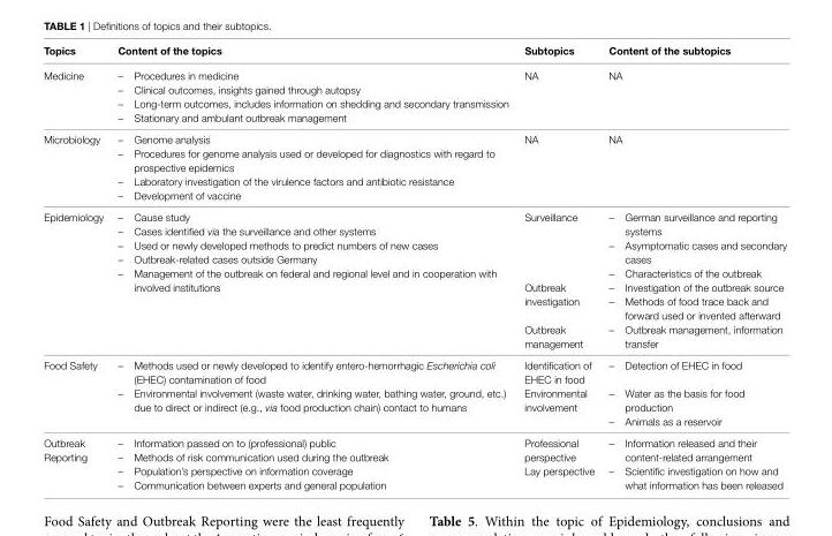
<table><thead><tr><td>Topics</td><td>Content of the topics</td><td>Subtopics</td><td>Content of the subtopics</td></tr></thead><tbody><tr><td>Medicine</td><td>– Procedures in medicine – Clinical outcomes, insights gained through autopsy – Long-term outcomes, includes information on shedding and secondary transmission – Stationary and ambulant outbreak management</td><td>NA</td><td>NA</td></tr><tr><td>Microbiology</td><td>– Genome analysis – Procedures for genome analysis used or developed for diagnostics with regard to prospective epidemics – Laboratory investigation of the virulence factors and antibiotic resistance – Development of vaccine</td><td>NA</td><td>NA</td></tr><tr><td rowspan="3">Epidemiology</td><td rowspan="3">– Cause study – Cases identified via the surveillance and other systems – Used or newly developed methods to predict numbers of new cases – Outbreak-related cases outside Germany – Management of the outbreak on federal and regional level and in cooperation with involved institutions</td><td>Surveillance</td><td>– German surveillance and reporting systems – Asymptomatic cases and secondary cases – Characteristics of the outbreak</td></tr><tr><td>Outbreak investigation</td><td>– Investigation of the outbreak source – Methods of food trace back and forward used or invented afterward</td></tr><tr><td>Outbreak management</td><td>– Outbreak management, information transfer</td></tr><tr><td rowspan="2">Food Safety</td><td rowspan="2">– Methods used or newly developed to identify entero-hemorrhagic Escherichia coli (EHEC) contamination of food – Environmental involvement (waste water, drinking water, bathing water, ground, etc.) due to direct or indirect (e.g., via food production chain) contact to humans</td><td>Identification of EHEC in food</td><td>– Detection of EHEC in food</td></tr><tr><td>Environmental involvement</td><td>– Water as the basis for food production – Animals as a reservoir</td></tr><tr><td rowspan="2">Outbreak Reporting</td><td rowspan="2">– Information passed on to (professional) public – Methods of risk communication used during the outbreak – Population’s perspective on information coverage – Communication between experts and general population</td><td>Professional perspective</td><td>– Information released and their content-related arrangement</td></tr><tr><td>Lay perspective</td><td>– Scientific investigation on how and what information has been released</td></tr></tbody></table>